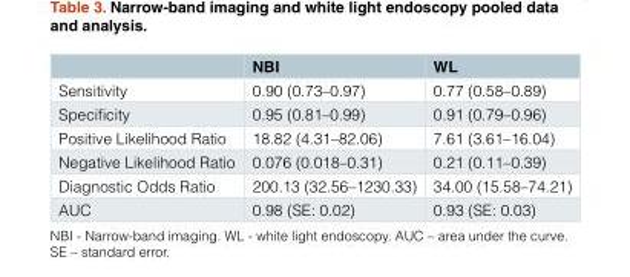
<table><thead><tr><td></td><td>NBI</td><td>WL</td></tr></thead><tbody><tr><td>Sensitivity</td><td>0.90 (0.73–0.97)</td><td>0.77 (0.58–0.89)</td></tr><tr><td>Specificity</td><td>0.95 (0.81–0.99)</td><td>0.91 (0.79–0.96)</td></tr><tr><td>Positive Likelihood Ratio</td><td>18.82 (4.31–82.06)</td><td>7.61 (3.61–16.04)</td></tr><tr><td>Negative Likelihood Ratio</td><td>0.076 (0.018–0.31)</td><td>0.21 (0.11–0.39)</td></tr><tr><td>Diagnostic Odds Ratio</td><td>200.13 (32.56–1230.33)</td><td>34.00 (15.58–74.21)</td></tr><tr><td>AUC</td><td>0.98 (SE: 0.02)</td><td>0.93 (SE: 0.03)</td></tr></tbody></table>